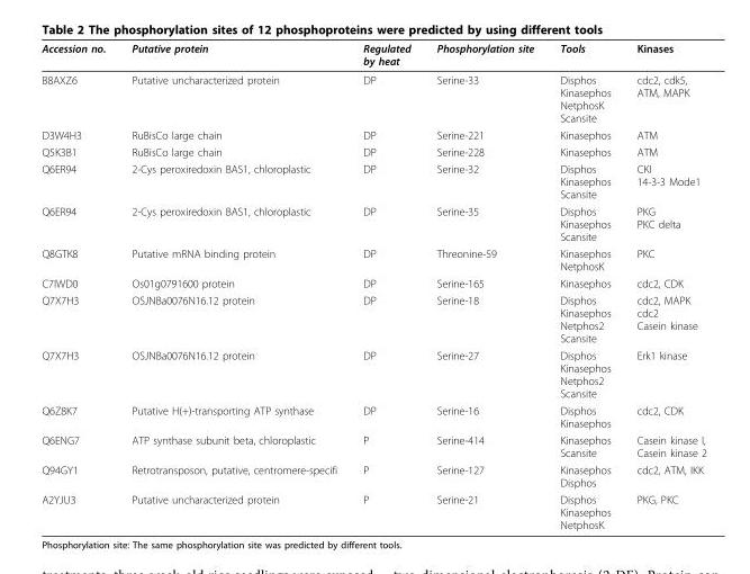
<table><thead><tr><td>Accession no.</td><td>Putative protein</td><td>Regulated by heat</td><td>Phosphorylation site</td><td>Tools</td><td>Kinases</td></tr></thead><tbody><tr><td>B8AXZ6</td><td>Putative uncharacterized protein</td><td>DP</td><td>Serine-33</td><td>Disphos Kinasephos NetphosK Scansite</td><td>cdc2, cdk5, ATM, MAPK</td></tr><tr><td>D3W4H3</td><td>RuBisCo large chain</td><td>DP</td><td>Serine-221</td><td>Kinasephos</td><td>ATM</td></tr><tr><td>Q5K3B1</td><td>RuBisCo large chain</td><td>DP</td><td>Serine-228</td><td>Kinasephos</td><td>ATM</td></tr><tr><td>Q6ER94</td><td>2-Cys peroxiredoxin BAS1, chloroplastic</td><td>DP</td><td>Serine-32</td><td>Disphos Kinasephos Scansite</td><td>CKI 14-3-3 Mode1</td></tr><tr><td>Q6ER94</td><td>2-Cys peroxiredoxin BAS1, chloroplastic</td><td>DP</td><td>Serine-35</td><td>Disphos Kinasephos Scansite</td><td>PKG PKC delta</td></tr><tr><td>Q8GTK8</td><td>Putative mRNA binding protein</td><td>DP</td><td>Threonine-59</td><td>Kinasephos NetphosK</td><td>PKC</td></tr><tr><td>C7IWD0</td><td>Os01g0791600 protein</td><td>DP</td><td>Serine-165</td><td>Kinasephos</td><td>cdc2, CDK</td></tr><tr><td>Q7X7H3</td><td>OSJNBa0076N16.12 protein</td><td>DP</td><td>Serine-18</td><td>Disphos Kinasephos Netphos2 Scansite</td><td>cdc2, MAPK cdc2 Casein kinase</td></tr><tr><td>Q7X7H3</td><td>OSJNBa0076N16.12 protein</td><td>DP</td><td>Serine-27</td><td>Disphos Kinasephos Netphos2 Scansite</td><td>Erk1 kinase</td></tr><tr><td>Q6Z8K7</td><td>Putative H(+)-transporting ATP synthase</td><td>DP</td><td>Serine-16</td><td>Disphos Kinasephos</td><td>cdc2, CDK</td></tr><tr><td>Q6ENG7</td><td>ATP synthase subunit beta, chloroplastic</td><td>P</td><td>Serine-414</td><td>Kinasephos Scansite</td><td>Casein kinase I, Casein kinase 2</td></tr><tr><td>Q94GY1</td><td>Retrotransposon, putative, centromere-specifi</td><td>P</td><td>Serine-127</td><td>Kinasephos Disphos</td><td>cdc2, ATM, IKK</td></tr><tr><td>A2YJU3</td><td>Putative uncharacterized protein</td><td>P</td><td>Serine-21</td><td>Disphos Kinasephos NetphosK</td><td>PKG, PKC</td></tr></tbody></table>